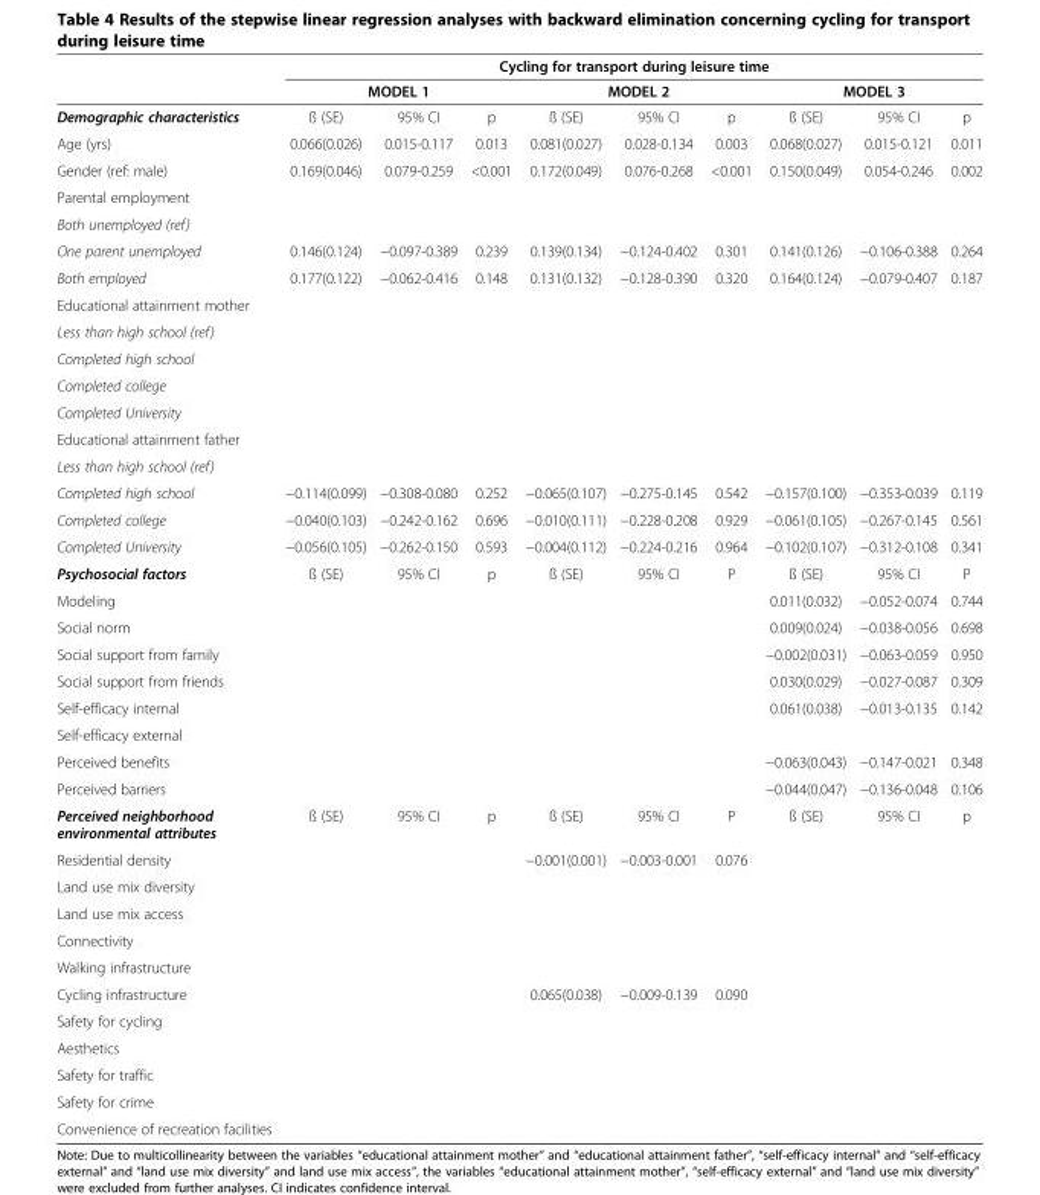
<table><thead><tr><td rowspan="3">Demographic characteristics</td><td colspan="9">Cycling for transport during leisure time</td></tr><tr><td colspan="3">MODEL 1</td><td colspan="3">MODEL 2</td><td colspan="3">MODEL 3</td></tr><tr><td>ß (SE)</td><td>95% CI</td><td>p</td><td>ß (SE)</td><td>95% CI</td><td>p</td><td>ß (SE)</td><td>95% CI</td><td>p</td></tr></thead><tbody><tr><td>Age (yrs)</td><td>0.066(0.026)</td><td>0.015-0.117</td><td>0.013</td><td>0.081(0.027)</td><td>0.028-0.134</td><td>0.003</td><td>0.068(0.027)</td><td>0.015-0.121</td><td>0.011</td></tr><tr><td>Gender (ref: male)</td><td>0.169(0.046)</td><td>0.079-0.259</td><td>&lt;0.001</td><td>0.172(0.049)</td><td>0.076-0.268</td><td>&lt;0.001</td><td>0.150(0.049)</td><td>0.054-0.246</td><td>0.002</td></tr><tr><td colspan="10">Parental employment</td></tr><tr><td colspan="10">Both unemployed (ref)</td></tr><tr><td>One parent unemployed</td><td>0.146(0.124)</td><td>−0.097-0.389</td><td>0.239</td><td>0.139(0.134)</td><td>−0.124-0.402</td><td>0.301</td><td>0.141(0.126)</td><td>−0.106-0.388</td><td>0.264</td></tr><tr><td>Both employed</td><td>0.177(0.122)</td><td>−0.062-0.416</td><td>0.148</td><td>0.131(0.132)</td><td>−0.128-0.390</td><td>0.320</td><td>0.164(0.124)</td><td>−0.079-0.407</td><td>0.187</td></tr><tr><td colspan="10">Educational attainment mother</td></tr><tr><td colspan="10">Less than high school (ref)</td></tr><tr><td colspan="10">Completed high school</td></tr><tr><td colspan="10">Completed college</td></tr><tr><td colspan="10">Completed University</td></tr><tr><td colspan="10">Educational attainment father</td></tr><tr><td colspan="10">Less than high school (ref)</td></tr><tr><td>Completed high school</td><td>−0.114(0.099)</td><td>−0.308-0.080</td><td>0.252</td><td>−0.065(0.107)</td><td>−0.275-0.145</td><td>0.542</td><td>−0.157(0.100)</td><td>−0.353-0.039</td><td>0.119</td></tr><tr><td>Completed college</td><td>−0.040(0.103)</td><td>−0.242-0.162</td><td>0.696</td><td>−0.010(0.111)</td><td>−0.228-0.208</td><td>0.929</td><td>−0.061(0.105)</td><td>−0.267-0.145</td><td>0.561</td></tr><tr><td>Completed University</td><td>−0.056(0.105)</td><td>−0.262-0.150</td><td>0.593</td><td>−0.004(0.112)</td><td>−0.224-0.216</td><td>0.964</td><td>−0.102(0.107)</td><td>−0.312-0.108</td><td>0.341</td></tr><tr><td>Psychosocial factors</td><td>ß (SE)</td><td>95% CI</td><td>p</td><td>ß (SE)</td><td>95% CI</td><td>P</td><td>ß (SE)</td><td>95% CI</td><td>P</td></tr><tr><td>Modeling</td><td></td><td></td><td></td><td></td><td></td><td></td><td>0.011(0.032)</td><td>−0.052-0.074</td><td>0.744</td></tr><tr><td>Social norm</td><td></td><td></td><td></td><td></td><td></td><td></td><td>0.009(0.024)</td><td>−0.038-0.056</td><td>0.698</td></tr><tr><td>Social support from family</td><td></td><td></td><td></td><td></td><td></td><td></td><td>−0.002(0.031)</td><td>−0.063-0.059</td><td>0.950</td></tr><tr><td>Social support from friends</td><td></td><td></td><td></td><td></td><td></td><td></td><td>0.030(0.029)</td><td>−0.027-0.087</td><td>0.309</td></tr><tr><td>Self-efficacy internal</td><td></td><td></td><td></td><td></td><td></td><td></td><td>0.061(0.038)</td><td>−0.013-0.135</td><td>0.142</td></tr><tr><td colspan="10">Self-efficacy external</td></tr><tr><td>Perceived benefits</td><td></td><td></td><td></td><td></td><td></td><td></td><td>−0.063(0.043)</td><td>−0.147-0.021</td><td>0.348</td></tr><tr><td>Perceived barriers</td><td></td><td></td><td></td><td></td><td></td><td></td><td>−0.044(0.047)</td><td>−0.136-0.048</td><td>0.106</td></tr><tr><td>Perceived neighborhood environmental attributes</td><td>ß (SE)</td><td>95% CI</td><td>p</td><td>ß (SE)</td><td>95% CI</td><td>P</td><td>ß (SE)</td><td>95% CI</td><td>p</td></tr><tr><td>Residential density</td><td></td><td></td><td></td><td>−0.001(0.001)</td><td>−0.003-0.001</td><td>0.076</td><td></td><td></td><td></td></tr><tr><td colspan="10">Land use mix diversity</td></tr><tr><td colspan="10">Land use mix access</td></tr><tr><td colspan="10">Connectivity</td></tr><tr><td colspan="10">Walking infrastructure</td></tr><tr><td>Cycling infrastructure</td><td></td><td></td><td></td><td>0.065(0.038)</td><td>−0.009-0.139</td><td>0.090</td><td></td><td></td><td></td></tr><tr><td colspan="10">Safety for cycling</td></tr><tr><td colspan="10">Aesthetics</td></tr><tr><td colspan="10">Safety for traffic</td></tr><tr><td colspan="10">Safety for crime</td></tr><tr><td>Convenience of recreation facilities</td><td></td><td></td><td></td><td></td><td></td><td></td><td></td><td></td><td></td></tr></tbody></table>